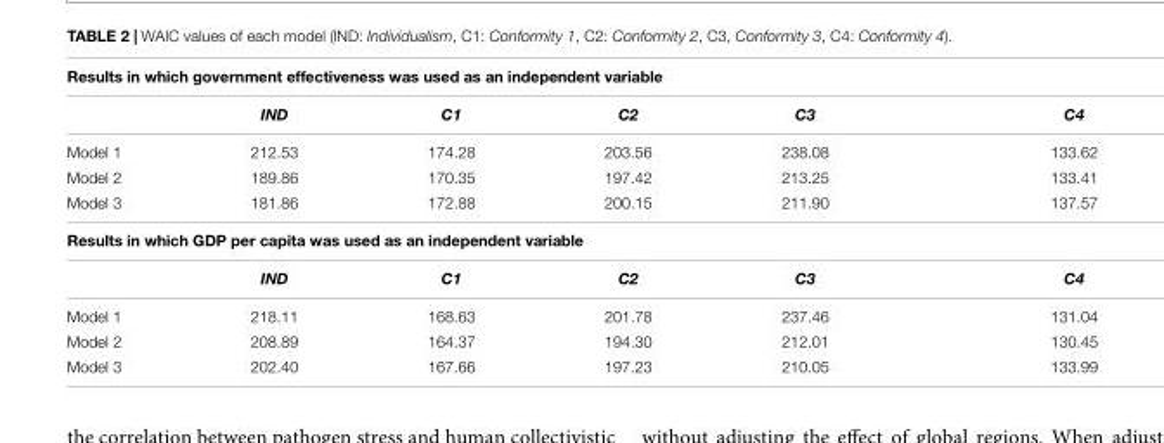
<table><thead><tr><td colspan="6">Results in which government effectiveness was used as an independent variable</td></tr><tr><td></td><td>IND</td><td>C1</td><td>C2</td><td>C3</td><td>C4</td></tr></thead><tbody><tr><td>Model 1</td><td>212.53</td><td>174.28</td><td>203.56</td><td>238.08</td><td>133.62</td></tr><tr><td>Model 2</td><td>189.86</td><td>170.35</td><td>197.42</td><td>213.25</td><td>133.41</td></tr><tr><td>Model 3</td><td>181.86</td><td>172.88</td><td>200.15</td><td>211.90</td><td>137.57</td></tr><tr><td colspan="6">Results in which GDP per capita was used as an independent variable</td></tr><tr><td></td><td>IND</td><td>C1</td><td>C2</td><td>C3</td><td>C4</td></tr><tr><td>Model 1</td><td>218.11</td><td>168.63</td><td>201.78</td><td>237.46</td><td>131.04</td></tr><tr><td>Model 2</td><td>208.89</td><td>164.37</td><td>194.30</td><td>212.01</td><td>130.45</td></tr><tr><td>Model 3</td><td>202.40</td><td>167.66</td><td>197.23</td><td>210.05</td><td>133.99</td></tr></tbody></table>